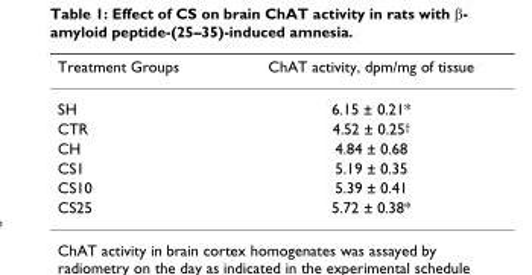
<table><thead><tr><td>Treatment Groups</td><td>ChAT activity, dpm/mg of tissue</td></tr></thead><tbody><tr><td>SH</td><td>6.15 ± 0.21*</td></tr><tr><td>CTR</td><td>4.52 ± 0.25<sup>†</sup></td></tr><tr><td>CH</td><td>4.84 ± 0.68</td></tr><tr><td>CS1</td><td>5.19 ± 0.35</td></tr><tr><td>CS10</td><td>5.39 ± 0.41</td></tr><tr><td>CS25</td><td>5.72 ± 0.38*</td></tr></tbody></table>